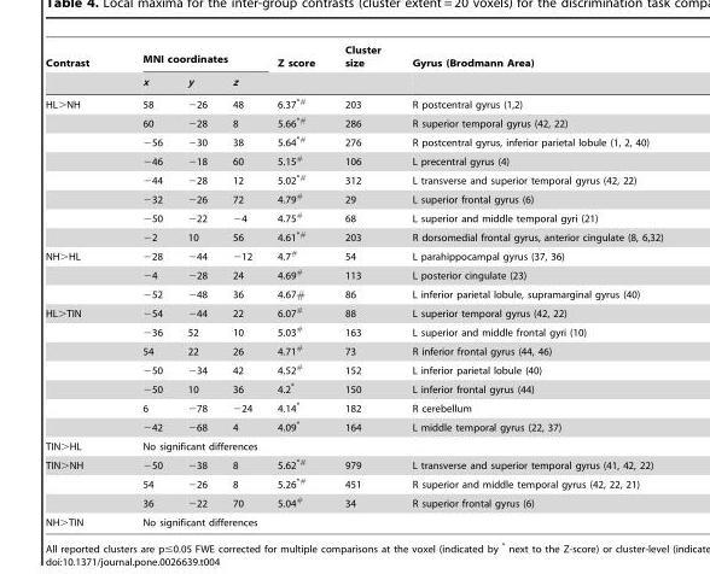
<table><thead><tr><td rowspan="2">Contrast</td><td colspan="3">MNI coordinates</td><td rowspan="2">Z score</td><td rowspan="2">Cluster size</td><td rowspan="2">Gyrus (Brodmann Area)</td></tr><tr><td>x</td><td>y</td><td>z</td></tr></thead><tbody><tr><td rowspan="8">HL&gt;NH</td><td>58</td><td>−26</td><td>48</td><td>6.37<sup>*#</sup></td><td>203</td><td>R postcentral gyrus (1,2)</td></tr><tr><td>60</td><td>−28</td><td>8</td><td>5.66<sup>*#</sup></td><td>286</td><td>R superior temporal gyrus (42, 22)</td></tr><tr><td>−56</td><td>−30</td><td>38</td><td>5.64<sup>*#</sup></td><td>276</td><td>R postcentral gyrus, inferior parietal lobule (1, 2, 40)</td></tr><tr><td>−46</td><td>−18</td><td>60</td><td>5.15<sup>#</sup></td><td>106</td><td>L precentral gyrus (4)</td></tr><tr><td>−44</td><td>−28</td><td>12</td><td>5.02<sup>*#</sup></td><td>312</td><td>L transverse and superior temporal gyrus (42, 22)</td></tr><tr><td>−32</td><td>−26</td><td>72</td><td>4.79<sup>#</sup></td><td>29</td><td>L superior frontal gyrus (6)</td></tr><tr><td>−50</td><td>−22</td><td>−4</td><td>4.75<sup>#</sup></td><td>68</td><td>L superior and middle temporal gyri (21)</td></tr><tr><td>−2</td><td>10</td><td>56</td><td>4.61<sup>*#</sup></td><td>203</td><td>R dorsomedial frontal gyrus, anterior cingulate (8, 6,32)</td></tr><tr><td rowspan="3">NH&gt;HL</td><td>−28</td><td>−44</td><td>−12</td><td>4.7<sup>#</sup></td><td>54</td><td>L parahippocampal gyrus (37, 36)</td></tr><tr><td>−4</td><td>−28</td><td>24</td><td>4.69<sup>#</sup></td><td>113</td><td>L posterior cingulate (23)</td></tr><tr><td>−52</td><td>−48</td><td>36</td><td>4.67#</td><td>86</td><td>L inferior parietal lobule, supramarginal gyrus (40)</td></tr><tr><td rowspan="7">HL&gt;TIN</td><td>−54</td><td>−44</td><td>22</td><td>6.07<sup>#</sup></td><td>88</td><td>L superior temporal gyrus (42, 22)</td></tr><tr><td>−36</td><td>52</td><td>10</td><td>5.03<sup>#</sup></td><td>163</td><td>L superior and middle frontal gyri (10)</td></tr><tr><td>54</td><td>22</td><td>26</td><td>4.71<sup>#</sup></td><td>73</td><td>R inferior frontal gyrus (44, 46)</td></tr><tr><td>−50</td><td>−34</td><td>42</td><td>4.52<sup>#</sup></td><td>152</td><td>L inferior parietal lobule (40)</td></tr><tr><td>−50</td><td>10</td><td>36</td><td>4.2*</td><td>150</td><td>L inferior frontal gyrus (44)</td></tr><tr><td>6</td><td>−78</td><td>−24</td><td>4.14*</td><td>182</td><td>R cerebellum</td></tr><tr><td>−42</td><td>−68</td><td>4</td><td>4.09*</td><td>164</td><td>L middle temporal gyrus (22, 37)</td></tr><tr><td>TIN&gt;HL</td><td colspan="6">No significant differences</td></tr><tr><td rowspan="3">TIN&gt;NH</td><td>−50</td><td>−38</td><td>8</td><td>5.62<sup>*#</sup></td><td>979</td><td>L transverse and superior temporal gyrus (41, 42, 22)</td></tr><tr><td>54</td><td>−26</td><td>8</td><td>5.26<sup>*#</sup></td><td>451</td><td>R superior and middle temporal gyrus (42, 22, 21)</td></tr><tr><td>36</td><td>−22</td><td>70</td><td>5.04<sup>#</sup></td><td>34</td><td>R superior frontal gyrus (6)</td></tr><tr><td>NH&gt;TIN</td><td colspan="6">No significant differences</td></tr></tbody></table>